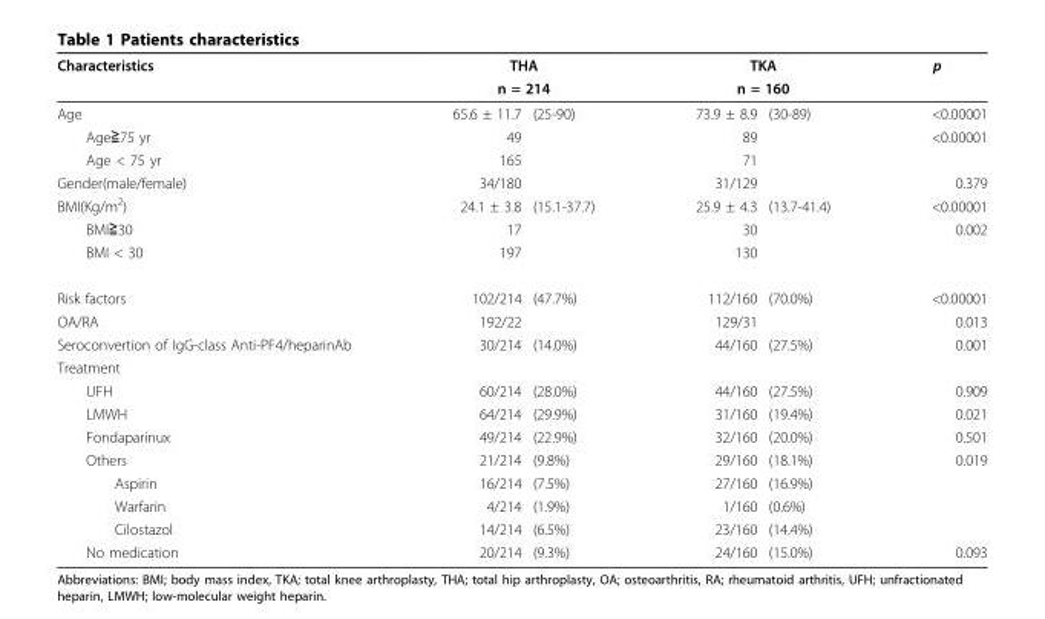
<table><thead><tr><td rowspan="3">Characteristics Age</td><td rowspan="2" colspan="2">THA n = 214</td><td rowspan="2" colspan="2">TKA n = 160</td><td rowspan="3">p &lt;0.00001</td></tr><tr></tr><tr><td>65.6 ± 11.7</td><td>(25-90)</td><td>73.9 ± 8.9</td><td>(30-89)</td></tr></thead><tbody><tr><td>Age≧75 yr</td><td>49</td><td></td><td>89</td><td></td><td>&lt;0.00001</td></tr><tr><td>Age &lt; 75 yr</td><td>165</td><td></td><td>71</td><td></td><td></td></tr><tr><td>Gender(male/female)</td><td>34/180</td><td></td><td>31/129</td><td></td><td>0.379</td></tr><tr><td>BMI(Kg/m<sup>2</sup>)</td><td>24.1 ± 3.8</td><td>(15.1-37.7)</td><td>25.9 ± 4.3</td><td>(13.7-41.4)</td><td>&lt;0.00001</td></tr><tr><td>BMI≧30</td><td>17</td><td></td><td>30</td><td></td><td>0.002</td></tr><tr><td>BMI &lt; 30</td><td>197</td><td></td><td>130</td><td></td><td></td></tr><tr><td>Risk factors</td><td>102/214</td><td>(47.7%)</td><td>112/160</td><td>(70.0%)</td><td>&lt;0.00001</td></tr><tr><td>OA/RA</td><td>192/22</td><td></td><td>129/31</td><td></td><td>0.013</td></tr><tr><td>Seroconvertion of IgG-class Anti-PF4/heparinAb</td><td>30/214</td><td>(14.0%)</td><td>44/160</td><td>(27.5%)</td><td>0.001</td></tr><tr><td colspan="6">Treatment</td></tr><tr><td>UFH</td><td>60/214</td><td>(28.0%)</td><td>44/160</td><td>(27.5%)</td><td>0.909</td></tr><tr><td>LMWH</td><td>64/214</td><td>(29.9%)</td><td>31/160</td><td>(19.4%)</td><td>0.021</td></tr><tr><td>Fondaparinux</td><td>49/214</td><td>(22.9%)</td><td>32/160</td><td>(20.0%)</td><td>0.501</td></tr><tr><td>Others</td><td>21/214</td><td>(9.8%)</td><td>29/160</td><td>(18.1%)</td><td>0.019</td></tr><tr><td>Aspirin</td><td>16/214</td><td>(7.5%)</td><td>27/160</td><td>(16.9%)</td><td></td></tr><tr><td>Warfarin</td><td>4/214</td><td>(1.9%)</td><td>1/160</td><td>(0.6%)</td><td></td></tr><tr><td>Cilostazol</td><td>14/214</td><td>(6.5%)</td><td>23/160</td><td>(14.4%)</td><td></td></tr><tr><td>No medication</td><td>20/214</td><td>(9.3%)</td><td>24/160</td><td>(15.0%)</td><td>0.093</td></tr></tbody></table>